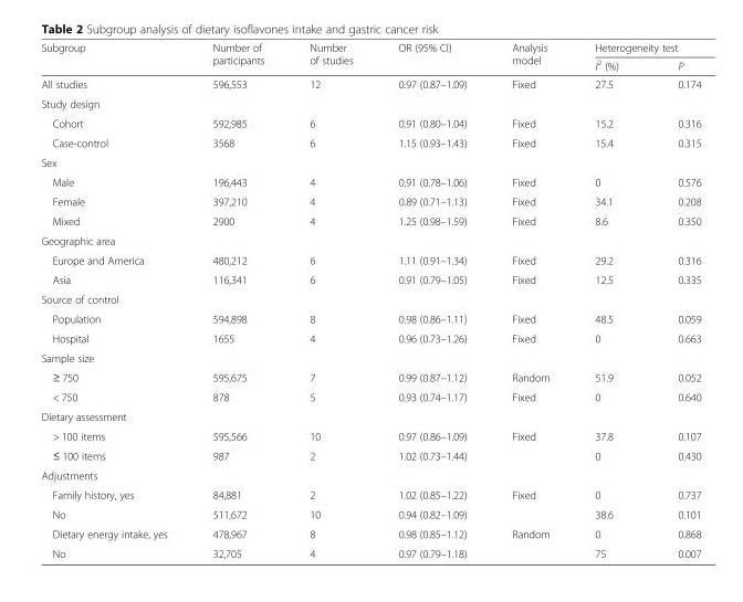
<table><thead><tr><td rowspan="2">Subgroup</td><td rowspan="2">Number of participants</td><td rowspan="2">Number of studies</td><td rowspan="2">OR (95% CI)</td><td rowspan="2">Analysis model</td><td colspan="2">Heterogeneity test</td></tr><tr><td>I<sup>2</sup> (%)</td><td>P</td></tr></thead><tbody><tr><td>All studies</td><td>596,553</td><td>12</td><td>0.97 (0.87–1.09)</td><td>Fixed</td><td>27.5</td><td>0.174</td></tr><tr><td colspan="7">Study design</td></tr><tr><td>Cohort</td><td>592,985</td><td>6</td><td>0.91 (0.80–1.04)</td><td>Fixed</td><td>15.2</td><td>0.316</td></tr><tr><td>Case-control</td><td>3568</td><td>6</td><td>1.15 (0.93–1.43)</td><td>Fixed</td><td>15.4</td><td>0.315</td></tr><tr><td colspan="7">Sex</td></tr><tr><td>Male</td><td>196,443</td><td>4</td><td>0.91 (0.78–1.06)</td><td>Fixed</td><td>0</td><td>0.576</td></tr><tr><td>Female</td><td>397,210</td><td>4</td><td>0.89 (0.71–1.13)</td><td>Fixed</td><td>34.1</td><td>0.208</td></tr><tr><td>Mixed</td><td>2900</td><td>4</td><td>1.25 (0.98–1.59)</td><td>Fixed</td><td>8.6</td><td>0.350</td></tr><tr><td colspan="7">Geographic area</td></tr><tr><td>Europe and America</td><td>480,212</td><td>6</td><td>1.11 (0.91–1.34)</td><td>Fixed</td><td>29.2</td><td>0.316</td></tr><tr><td>Asia</td><td>116,341</td><td>6</td><td>0.91 (0.79–1.05)</td><td>Fixed</td><td>12.5</td><td>0.335</td></tr><tr><td colspan="7">Source of control</td></tr><tr><td>Population</td><td>594,898</td><td>8</td><td>0.98 (0.86–1.11)</td><td>Fixed</td><td>48.5</td><td>0.059</td></tr><tr><td>Hospital</td><td>1655</td><td>4</td><td>0.96 (0.73–1.26)</td><td>Fixed</td><td>0</td><td>0.663</td></tr><tr><td colspan="7">Sample size</td></tr><tr><td>≥ 750</td><td>595,675</td><td>7</td><td>0.99 (0.87–1.12)</td><td>Random</td><td>51.9</td><td>0.052</td></tr><tr><td>&lt; 750</td><td>878</td><td>5</td><td>0.93 (0.74–1.17)</td><td>Fixed</td><td>0</td><td>0.640</td></tr><tr><td colspan="7">Dietary assessment</td></tr><tr><td>&gt; 100 items</td><td>595,566</td><td>10</td><td>0.97 (0.86–1.09)</td><td>Fixed</td><td>37.8</td><td>0.107</td></tr><tr><td>≤ 100 items</td><td>987</td><td>2</td><td>1.02 (0.73–1.44)</td><td></td><td>0</td><td>0.430</td></tr><tr><td colspan="7">Adjustments</td></tr><tr><td>Family history, yes</td><td>84,881</td><td>2</td><td>1.02 (0.85–1.22)</td><td>Fixed</td><td>0</td><td>0.737</td></tr><tr><td>No</td><td>511,672</td><td>10</td><td>0.94 (0.82–1.09)</td><td></td><td>38.6</td><td>0.101</td></tr><tr><td>Dietary energy intake, yes</td><td>478,967</td><td>8</td><td>0.98 (0.85–1.12)</td><td>Random</td><td>0</td><td>0.868</td></tr><tr><td>No</td><td>32,705</td><td>4</td><td>0.97 (0.79–1.18)</td><td></td><td>75</td><td>0.007</td></tr></tbody></table>